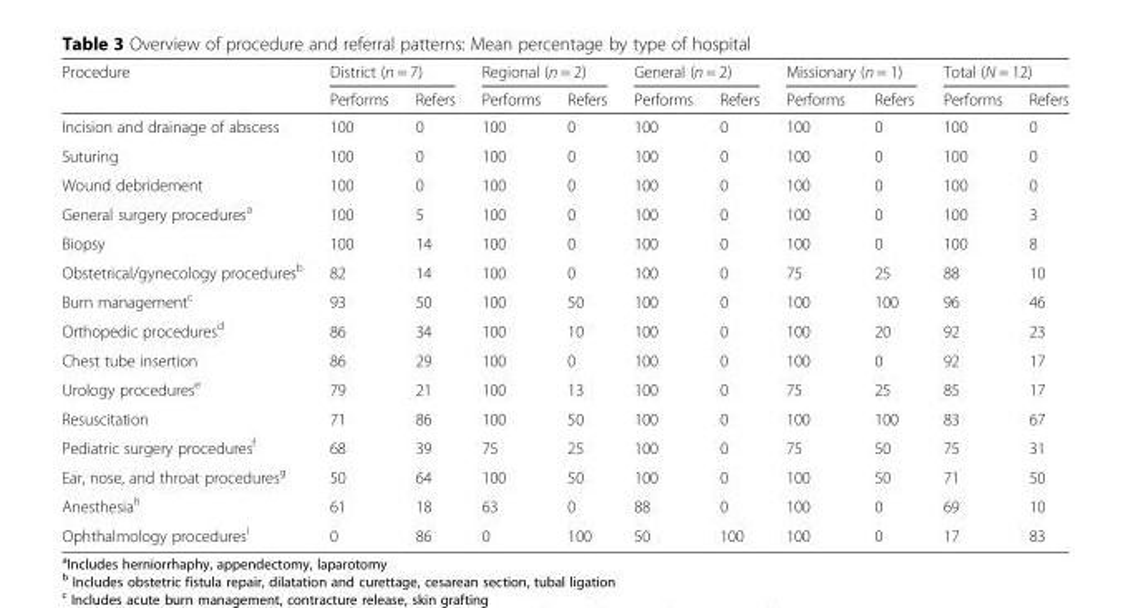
<table><thead><tr><td rowspan="2">Procedure</td><td colspan="2">District (n = 7)</td><td colspan="2">Regional (n = 2)</td><td colspan="2">General (n = 2)</td><td colspan="2">Missionary (n = 1)</td><td colspan="2">Total (N = 12)</td></tr><tr><td>Performs</td><td>Refers</td><td>Performs</td><td>Refers</td><td>Performs</td><td>Refers</td><td>Performs</td><td>Refers</td><td>Performs</td><td>Refers</td></tr></thead><tbody><tr><td>Incision and drainage of abscess</td><td>100</td><td>0</td><td>100</td><td>0</td><td>100</td><td>0</td><td>100</td><td>0</td><td>100</td><td>0</td></tr><tr><td>Suturing</td><td>100</td><td>0</td><td>100</td><td>0</td><td>100</td><td>0</td><td>100</td><td>0</td><td>100</td><td>0</td></tr><tr><td>Wound debridement</td><td>100</td><td>0</td><td>100</td><td>0</td><td>100</td><td>0</td><td>100</td><td>0</td><td>100</td><td>0</td></tr><tr><td>General surgery procedures<sup>a</sup></td><td>100</td><td>5</td><td>100</td><td>0</td><td>100</td><td>0</td><td>100</td><td>0</td><td>100</td><td>3</td></tr><tr><td>Biopsy</td><td>100</td><td>14</td><td>100</td><td>0</td><td>100</td><td>0</td><td>100</td><td>0</td><td>100</td><td>8</td></tr><tr><td>Obstetrical/gynecology procedures<sup>b</sup></td><td>82</td><td>14</td><td>100</td><td>0</td><td>100</td><td>0</td><td>75</td><td>25</td><td>88</td><td>10</td></tr><tr><td>Burn management<sup>c</sup></td><td>93</td><td>50</td><td>100</td><td>50</td><td>100</td><td>0</td><td>100</td><td>100</td><td>96</td><td>46</td></tr><tr><td>Orthopedic procedures<sup>d</sup></td><td>86</td><td>34</td><td>100</td><td>10</td><td>100</td><td>0</td><td>100</td><td>20</td><td>92</td><td>23</td></tr><tr><td>Chest tube insertion</td><td>86</td><td>29</td><td>100</td><td>0</td><td>100</td><td>0</td><td>100</td><td>0</td><td>92</td><td>17</td></tr><tr><td>Urology procedures<sup>e</sup></td><td>79</td><td>21</td><td>100</td><td>13</td><td>100</td><td>0</td><td>75</td><td>25</td><td>85</td><td>17</td></tr><tr><td>Resuscitation</td><td>71</td><td>86</td><td>100</td><td>50</td><td>100</td><td>0</td><td>100</td><td>100</td><td>83</td><td>67</td></tr><tr><td>Pediatric surgery procedures<sup>f</sup></td><td>68</td><td>39</td><td>75</td><td>25</td><td>100</td><td>0</td><td>75</td><td>50</td><td>75</td><td>31</td></tr><tr><td>Ear, nose, and throat procedures<sup>g</sup></td><td>50</td><td>64</td><td>100</td><td>50</td><td>100</td><td>0</td><td>100</td><td>50</td><td>71</td><td>50</td></tr><tr><td>Anesthesia<sup>h</sup></td><td>61</td><td>18</td><td>63</td><td>0</td><td>88</td><td>0</td><td>100</td><td>0</td><td>69</td><td>10</td></tr><tr><td>Ophthalmology procedures<sup>i</sup></td><td>0</td><td>86</td><td>0</td><td>100</td><td>50</td><td>100</td><td>100</td><td>0</td><td>17</td><td>83</td></tr></tbody></table>